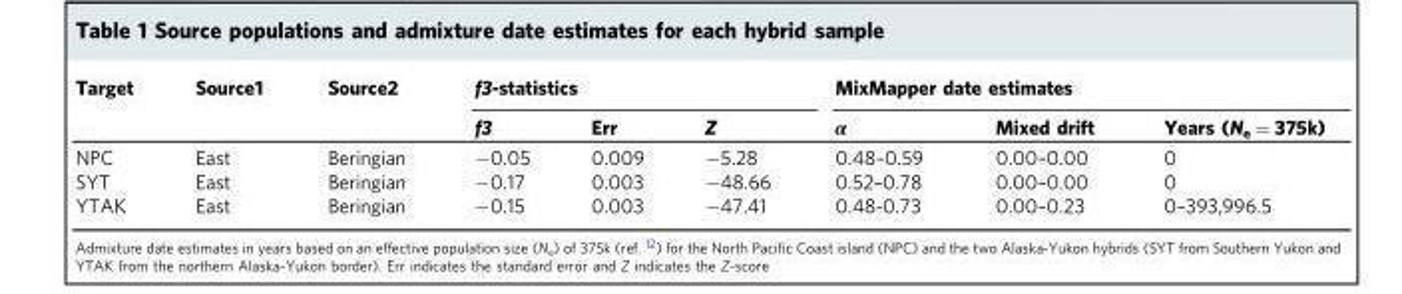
<table><thead><tr><td rowspan="2">Target</td><td rowspan="2">Source1</td><td rowspan="2">Source2</td><td colspan="3">f3-statistics</td><td colspan="3">MixMapper date estimates</td></tr><tr><td>f3</td><td>Err</td><td>Z</td><td>α</td><td>Mixed drift</td><td>Years (N<sub>e</sub> = 375k)</td></tr></thead><tbody><tr><td>NPC</td><td>East</td><td>Beringian</td><td>−0.05</td><td>0.009</td><td>−5.28</td><td>0.48–0.59</td><td>0.00–0.00</td><td>0</td></tr><tr><td>SYT</td><td>East</td><td>Beringian</td><td>−0.17</td><td>0.003</td><td>−48.66</td><td>0.52–0.78</td><td>0.00–0.00</td><td>0</td></tr><tr><td>YTAK</td><td>East</td><td>Beringian</td><td>−0.15</td><td>0.003</td><td>−47.41</td><td>0.48-0.73</td><td>0.00–0.23</td><td>0–393,996.5</td></tr></tbody></table>